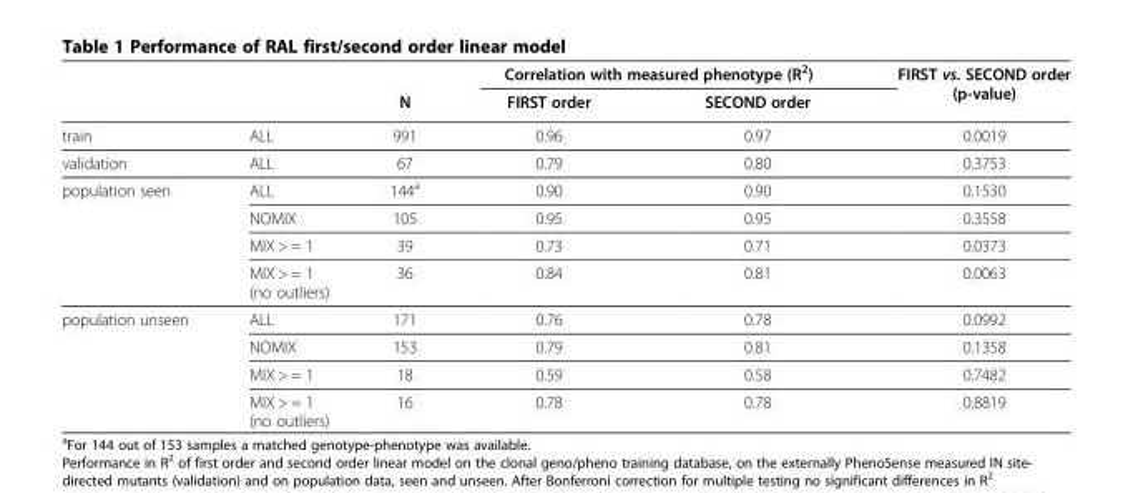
<table><thead><tr><td rowspan="2"></td><td rowspan="2"></td><td rowspan="2">N</td><td colspan="2">Correlation with measured phenotype (R<sup>2</sup>)</td><td rowspan="2">FIRST vs. SECOND order (p-value)</td></tr><tr><td>FIRST order</td><td>SECOND order</td></tr></thead><tbody><tr><td>train</td><td>ALL</td><td>991</td><td>0.96</td><td>0.97</td><td>0.0019</td></tr><tr><td>validation</td><td>ALL</td><td>67</td><td>0.79</td><td>0.80</td><td>0.3753</td></tr><tr><td rowspan="4">population seen</td><td>ALL</td><td>144<sup>a</sup></td><td>0.90</td><td>0.90</td><td>0.1530</td></tr><tr><td>NOMIX</td><td>105</td><td>0.95</td><td>0.95</td><td>0.3558</td></tr><tr><td>MIX &gt; = 1</td><td>39</td><td>0.73</td><td>0.71</td><td>0.0373</td></tr><tr><td>MIX &gt; = 1 (no outliers)</td><td>36</td><td>0.84</td><td>0.81</td><td>0.0063</td></tr><tr><td rowspan="4">population unseen</td><td>ALL</td><td>171</td><td>0.76</td><td>0.78</td><td>0.0992</td></tr><tr><td>NOMIX</td><td>153</td><td>0.79</td><td>0.81</td><td>0.1358</td></tr><tr><td>MIX &gt; = 1</td><td>18</td><td>0.59</td><td>0.58</td><td>0.7482</td></tr><tr><td>MIX &gt; = 1 (no outliers)</td><td>16</td><td>0.78</td><td>0.78</td><td>0.8819</td></tr></tbody></table>